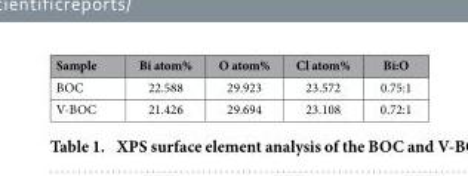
<table><thead><tr><td>Sample</td><td>Bi atom%</td><td>O atom%</td><td>Cl atom%</td><td>Bi:O</td></tr></thead><tbody><tr><td>BOC</td><td>22.588</td><td>29.923</td><td>23.572</td><td>0.75:1</td></tr><tr><td>V-BOC</td><td>21.426</td><td>29.694</td><td>23.108</td><td>0.72:1</td></tr></tbody></table>